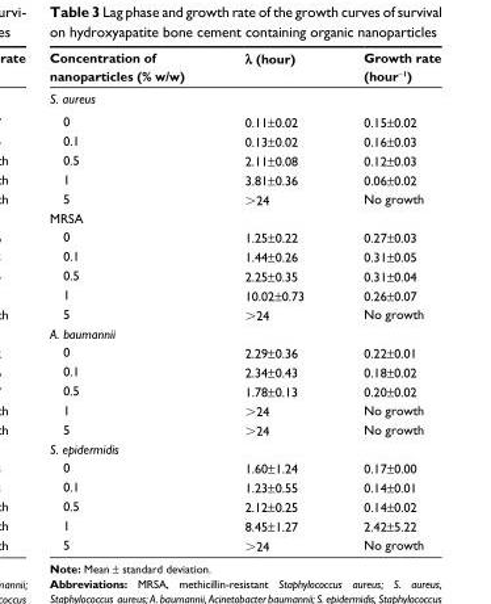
<table><thead><tr><td>Concentration of nanoparticles (% w/w)</td><td>λ (hour)</td><td>Growth rate (hour<sup>−1</sup>)</td></tr></thead><tbody><tr><td colspan="3">S. aureus</td></tr><tr><td>0</td><td>0.11±0.02</td><td>0.15±0.02</td></tr><tr><td>0.1</td><td>0.13±0.02</td><td>0.16±0.03</td></tr><tr><td>0.5</td><td>2.11±0.08</td><td>0.12±0.03</td></tr><tr><td>1</td><td>3.81±0.36</td><td>0.06±0.02</td></tr><tr><td>5</td><td>&gt;24</td><td>No growth</td></tr><tr><td colspan="3">Mrsa</td></tr><tr><td>0</td><td>1.25±0.22</td><td>0.27±0.03</td></tr><tr><td>0.1</td><td>1.44±0.26</td><td>0.31±0.05</td></tr><tr><td>0.5</td><td>2.25±0.35</td><td>0.31±0.04</td></tr><tr><td>1</td><td>10.02±0.73</td><td>0.26±0.07</td></tr><tr><td>5</td><td>&gt;24</td><td>No growth</td></tr><tr><td colspan="3">A. baumannii</td></tr><tr><td>0</td><td>2.29±0.36</td><td>0.22±0.01</td></tr><tr><td>0.1</td><td>2.34±0.43</td><td>0.18±0.02</td></tr><tr><td>0.5</td><td>1.78±0.13</td><td>0.20±0.02</td></tr><tr><td>1</td><td>&gt;24</td><td>No growth</td></tr><tr><td>5</td><td>&gt;24</td><td>No growth</td></tr><tr><td colspan="3">S. epidermidis</td></tr><tr><td>0</td><td>1.60±1.24</td><td>0.17±0.00</td></tr><tr><td>0.1</td><td>1.23±0.55</td><td>0.14±0.01</td></tr><tr><td>0.5</td><td>2.12±0.25</td><td>0.14±0.02</td></tr><tr><td>1</td><td>8.45±1.27</td><td>2.42±5.22</td></tr><tr><td>5</td><td>&gt;24</td><td>No growth</td></tr></tbody></table>